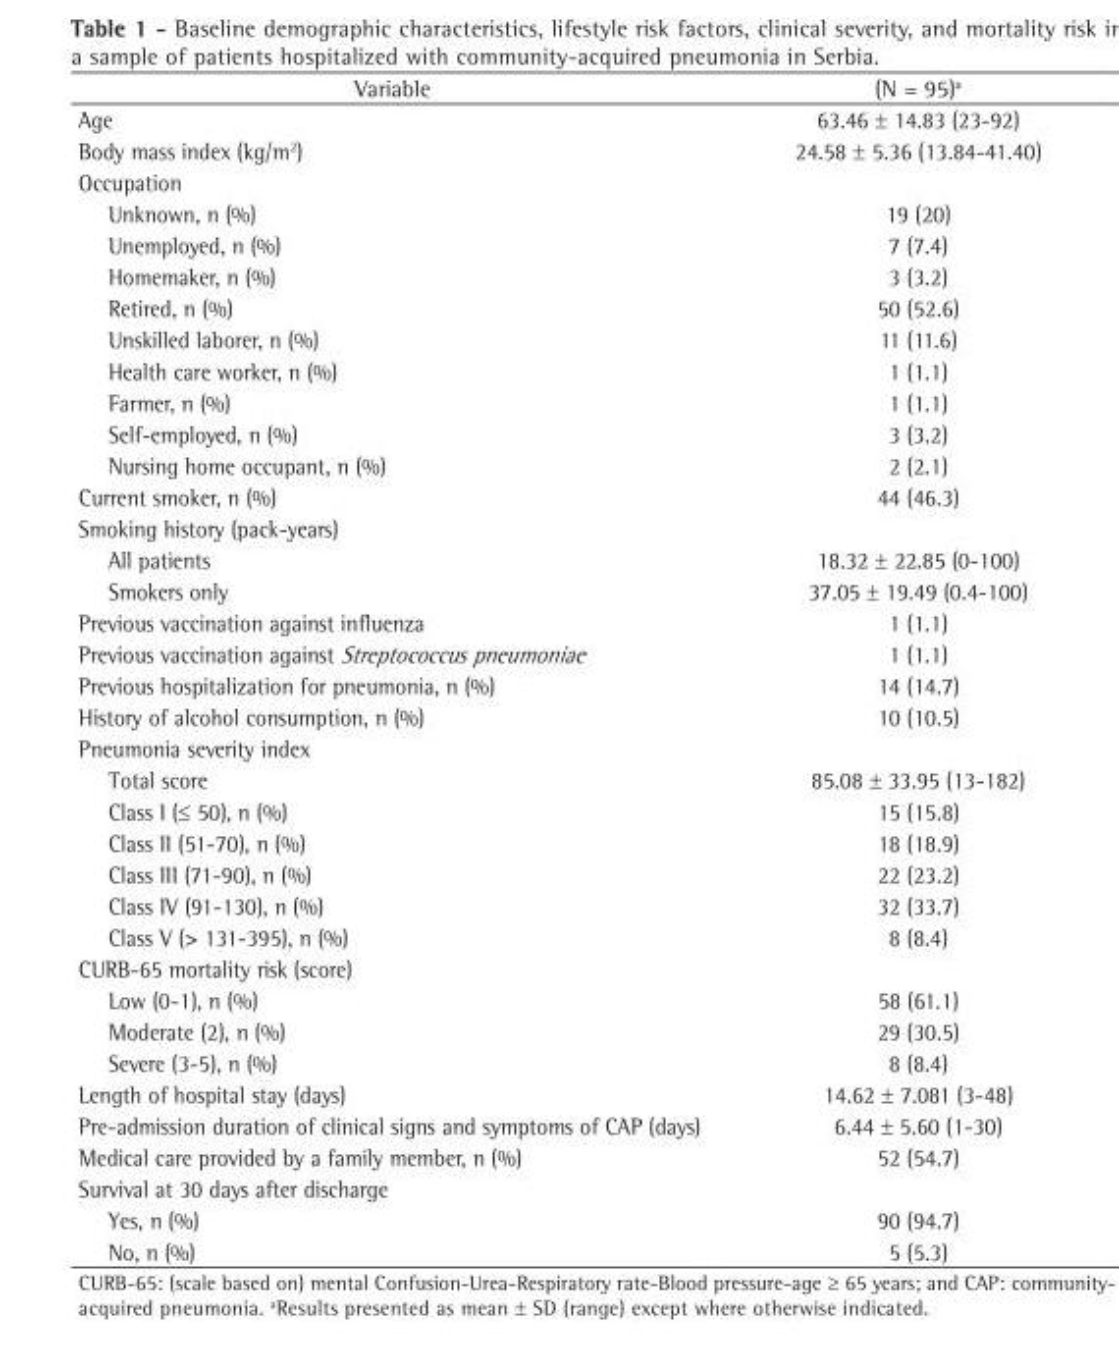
<table><thead><tr><td>Variable</td><td>(N = 95)<sup>a</sup></td></tr></thead><tbody><tr><td>Age</td><td>63.46 ± 14.83 (23-92)</td></tr><tr><td>Body mass index (kg/m<sup>2</sup>)</td><td>24.58 ± 5.36 (13.84-41.40)</td></tr><tr><td colspan="2">Occupation</td></tr><tr><td>Unknown, n (%)</td><td>19 (20)</td></tr><tr><td>Unemployed, n (%)</td><td>7 (7.4)</td></tr><tr><td>Homemaker, n (%)</td><td>3 (3.2)</td></tr><tr><td>Retired, n (%)</td><td>50 (52.6)</td></tr><tr><td>Unskilled laborer, n (%)</td><td>11 (11.6)</td></tr><tr><td>Health care worker, n (%)</td><td>1 (1.1)</td></tr><tr><td>Farmer, n (%)</td><td>1 (1.1)</td></tr><tr><td>Self-employed, n (%)</td><td>3 (3.2)</td></tr><tr><td>Nursing home occupant, n (%)</td><td>2 (2.1)</td></tr><tr><td>Current smoker, n (%)</td><td>44 (46.3)</td></tr><tr><td colspan="2">Smoking history (pack-years)</td></tr><tr><td>All patients</td><td>18.32 ± 22.85 (0-100)</td></tr><tr><td>Smokers only</td><td>37.05 ± 19.49 (0.4-100)</td></tr><tr><td>Previous vaccination against influenza</td><td>1 (1.1)</td></tr><tr><td>Previous vaccination against Streptococcus pneumoniae</td><td>1 (1.1)</td></tr><tr><td>Previous hospitalization for pneumonia, n (%)</td><td>14 (14.7)</td></tr><tr><td>History of alcohol consumption, n (%)</td><td>10 (10.5)</td></tr><tr><td colspan="2">Pneumonia severity index</td></tr><tr><td>Total score</td><td>85.08 ± 33.95 (13-182)</td></tr><tr><td>Class I (≤ 50), n (%)</td><td>15 (15.8)</td></tr><tr><td>Class II (51-70), n (%)</td><td>18 (18.9)</td></tr><tr><td>Class III (71-90), n (%)</td><td>22 (23.2)</td></tr><tr><td>Class IV (91-130), n (%)</td><td>32 (33.7)</td></tr><tr><td>Class V (&gt; 131-395), n (%)</td><td>8 (8.4)</td></tr><tr><td colspan="2">CURB-65 mortality risk (score)</td></tr><tr><td>Low (0-1), n (%)</td><td>58 (61.1)</td></tr><tr><td>Moderate (2), n (%)</td><td>29 (30.5)</td></tr><tr><td>Severe (3-5), n (%)</td><td>8 (8.4)</td></tr><tr><td>Length of hospital stay (days)</td><td>14.62 ± 7.081 (3-48)</td></tr><tr><td>Pre-admission duration of clinical signs and symptoms of CAP (days)</td><td>6.44 ± 5.60 (1-30)</td></tr><tr><td>Medical care provided by a family member, n (%)</td><td>52 (54.7)</td></tr><tr><td colspan="2">Survival at 30 days after discharge</td></tr><tr><td>Yes, n (%)</td><td>90 (94.7)</td></tr><tr><td>No, n (%)</td><td>5 (5.3)</td></tr></tbody></table>